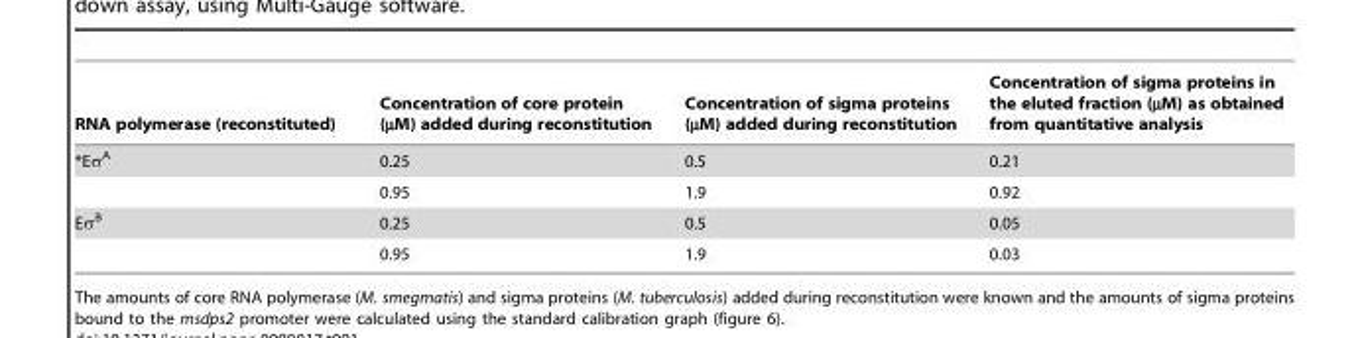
<table><thead><tr><td>RNA polymerase (reconstituted)</td><td>Concentration of core protein (µM) added during reconstitution</td><td>Concentration of sigma proteins (µM) added during reconstitution</td><td>Concentration of sigma proteins in the eluted fraction (µM) as obtained from quantitative analysis</td></tr></thead><tbody><tr><td rowspan="2">*Eσ<sup>A</sup></td><td>0.25</td><td>0.5</td><td>0.21</td></tr><tr><td>0.95</td><td>1.9</td><td>0.92</td></tr><tr><td rowspan="2">Eσ<sup>B</sup></td><td>0.25</td><td>0.5</td><td>0.05</td></tr><tr><td>0.95</td><td>1.9</td><td>0.03</td></tr></tbody></table>